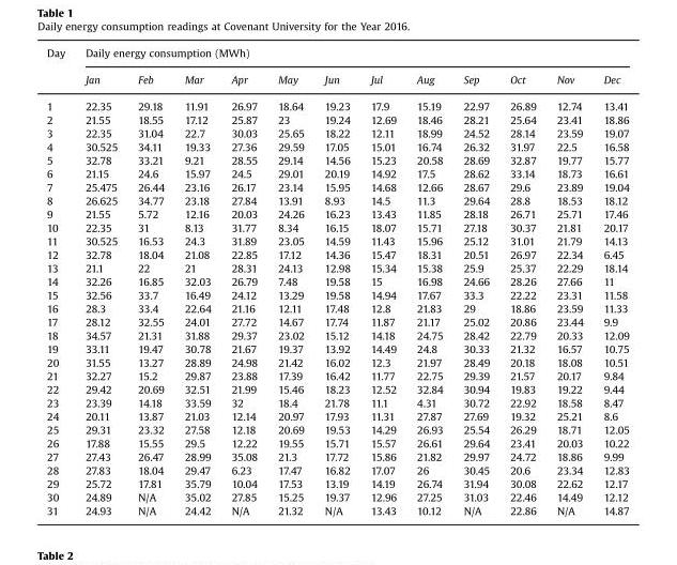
<table><thead><tr><td rowspan="2">Day</td><td colspan="12">Daily energy consumption (MWh)</td></tr><tr><td>Jan</td><td>Feb</td><td>Mar</td><td>Apr</td><td>May</td><td>Jun</td><td>Jul</td><td>Aug</td><td>Sep</td><td>Oct</td><td>Nov</td><td>Dec</td></tr></thead><tbody><tr><td>1</td><td>22.35</td><td>29.18</td><td>11.91</td><td>26.97</td><td>18.64</td><td>19.23</td><td>17.9</td><td>15.19</td><td>22.97</td><td>26.89</td><td>12.74</td><td>13.41</td></tr><tr><td>2</td><td>21.55</td><td>18.55</td><td>17.12</td><td>25.87</td><td>23</td><td>19.24</td><td>12.69</td><td>18.46</td><td>28.21</td><td>25.64</td><td>23.41</td><td>18.86</td></tr><tr><td>3</td><td>22.35</td><td>31.04</td><td>22.7</td><td>30.03</td><td>25.65</td><td>18.22</td><td>12.11</td><td>18.99</td><td>24.52</td><td>28.14</td><td>23.59</td><td>19.07</td></tr><tr><td>4</td><td>30.525</td><td>34.11</td><td>19.33</td><td>27.36</td><td>29.59</td><td>17.05</td><td>15.01</td><td>16.74</td><td>26.32</td><td>31.97</td><td>22.5</td><td>16.58</td></tr><tr><td>5</td><td>32.78</td><td>33.21</td><td>9.21</td><td>28.55</td><td>29.14</td><td>14.56</td><td>15.23</td><td>20.58</td><td>28.69</td><td>32.87</td><td>19.77</td><td>15.77</td></tr><tr><td>6</td><td>21.15</td><td>24.6</td><td>15.97</td><td>24.5</td><td>29.01</td><td>20.19</td><td>14.92</td><td>17.5</td><td>28.62</td><td>33.14</td><td>18.73</td><td>16.61</td></tr><tr><td>7</td><td>25.475</td><td>26.44</td><td>23.16</td><td>26.17</td><td>23.14</td><td>15.95</td><td>14.68</td><td>12.66</td><td>28.67</td><td>29.6</td><td>23.89</td><td>19.04</td></tr><tr><td>8</td><td>26.625</td><td>34.77</td><td>23.18</td><td>27.84</td><td>13.91</td><td>8.93</td><td>14.5</td><td>11.3</td><td>29.64</td><td>28.8</td><td>18.53</td><td>18.12</td></tr><tr><td>9</td><td>21.55</td><td>5.72</td><td>12.16</td><td>20.03</td><td>24.26</td><td>16.23</td><td>13.43</td><td>11.85</td><td>28.18</td><td>26.71</td><td>25.71</td><td>17.46</td></tr><tr><td>10</td><td>22.35</td><td>31</td><td>8.13</td><td>31.77</td><td>8.34</td><td>16.15</td><td>18.07</td><td>15.71</td><td>27.18</td><td>30.37</td><td>21.81</td><td>20.17</td></tr><tr><td>11</td><td>30.525</td><td>16.53</td><td>24.3</td><td>31.89</td><td>23.05</td><td>14.59</td><td>11.43</td><td>15.96</td><td>25.12</td><td>31.01</td><td>21.79</td><td>14.13</td></tr><tr><td>12</td><td>32.78</td><td>18.04</td><td>21.08</td><td>22.85</td><td>17.12</td><td>14.36</td><td>15.47</td><td>18.31</td><td>20.51</td><td>26.97</td><td>22.34</td><td>6.45</td></tr><tr><td>13</td><td>21.1</td><td>22</td><td>21</td><td>28.31</td><td>24.13</td><td>12.98</td><td>15.34</td><td>15.38</td><td>25.9</td><td>25.37</td><td>22.29</td><td>18.14</td></tr><tr><td>14</td><td>32.26</td><td>16.85</td><td>32.03</td><td>26.79</td><td>7.48</td><td>19.58</td><td>15</td><td>16.98</td><td>24.66</td><td>28.26</td><td>27.66</td><td>11</td></tr><tr><td>15</td><td>32.56</td><td>33.7</td><td>16.49</td><td>24.12</td><td>13.29</td><td>19.58</td><td>14.94</td><td>17.67</td><td>33.3</td><td>22.22</td><td>23.31</td><td>11.58</td></tr><tr><td>16</td><td>28.3</td><td>33.4</td><td>22.64</td><td>21.16</td><td>12.11</td><td>17.48</td><td>12.8</td><td>21.83</td><td>29</td><td>18.86</td><td>23.59</td><td>11.33</td></tr><tr><td>17</td><td>28.12</td><td>32.55</td><td>24.01</td><td>27.72</td><td>14.67</td><td>17.74</td><td>11.87</td><td>21.17</td><td>25.02</td><td>20.86</td><td>23.44</td><td>9.9</td></tr><tr><td>18</td><td>34.57</td><td>21.31</td><td>31.88</td><td>29.37</td><td>23.02</td><td>15.12</td><td>14.18</td><td>24.75</td><td>28.42</td><td>22.79</td><td>20.33</td><td>12.09</td></tr><tr><td>19</td><td>33.11</td><td>19.47</td><td>30.78</td><td>21.67</td><td>19.37</td><td>13.92</td><td>14.49</td><td>24.8</td><td>30.33</td><td>21.32</td><td>16.57</td><td>10.75</td></tr><tr><td>20</td><td>31.55</td><td>13.27</td><td>28.89</td><td>24.98</td><td>21.42</td><td>16.02</td><td>12.3</td><td>21.97</td><td>28.49</td><td>20.18</td><td>18.08</td><td>10.51</td></tr><tr><td>21</td><td>32.27</td><td>15.2</td><td>29.87</td><td>23.88</td><td>17.39</td><td>16.42</td><td>11.77</td><td>22.75</td><td>29.39</td><td>21.57</td><td>20.17</td><td>9.84</td></tr><tr><td>22</td><td>29.42</td><td>20.69</td><td>32.51</td><td>21.99</td><td>15.46</td><td>18.23</td><td>12.52</td><td>32.84</td><td>30.94</td><td>19.83</td><td>19.22</td><td>9.44</td></tr><tr><td>23</td><td>23.39</td><td>14.18</td><td>33.59</td><td>32</td><td>18.4</td><td>21.78</td><td>11.1</td><td>4.31</td><td>30.72</td><td>22.92</td><td>18.58</td><td>8.47</td></tr><tr><td>24</td><td>20.11</td><td>13.87</td><td>21.03</td><td>12.14</td><td>20.97</td><td>17.93</td><td>11.31</td><td>27.87</td><td>27.69</td><td>19.32</td><td>25.21</td><td>8.6</td></tr><tr><td>25</td><td>29.31</td><td>23.32</td><td>27.58</td><td>12.18</td><td>20.69</td><td>19.53</td><td>14.29</td><td>26.93</td><td>25.54</td><td>26.29</td><td>18.71</td><td>12.05</td></tr><tr><td>26</td><td>17.88</td><td>15.55</td><td>29.5</td><td>12.22</td><td>19.55</td><td>15.71</td><td>15.57</td><td>26.61</td><td>29.64</td><td>23.41</td><td>20.03</td><td>10.22</td></tr><tr><td>27</td><td>27.43</td><td>26.47</td><td>28.99</td><td>35.08</td><td>21.3</td><td>17.72</td><td>15.86</td><td>21.82</td><td>29.97</td><td>24.72</td><td>18.86</td><td>9.99</td></tr><tr><td>28</td><td>27.83</td><td>18.04</td><td>29.47</td><td>6.23</td><td>17.47</td><td>16.82</td><td>17.07</td><td>26</td><td>30.45</td><td>20.6</td><td>23.34</td><td>12.83</td></tr><tr><td>29</td><td>25.72</td><td>17.81</td><td>35.79</td><td>10.04</td><td>17.53</td><td>13.19</td><td>14.19</td><td>26.74</td><td>31.94</td><td>30.08</td><td>22.62</td><td>12.17</td></tr><tr><td>30</td><td>24.89</td><td>N/A</td><td>35.02</td><td>27.85</td><td>15.25</td><td>19.37</td><td>12.96</td><td>27.25</td><td>31.03</td><td>22.46</td><td>14.49</td><td>12.12</td></tr><tr><td>31</td><td>24.93</td><td>N/A</td><td>24.42</td><td>N/A</td><td>21.32</td><td>N/A</td><td>13.43</td><td>10.12</td><td>N/A</td><td>22.86</td><td>N/A</td><td>14.87</td></tr></tbody></table>